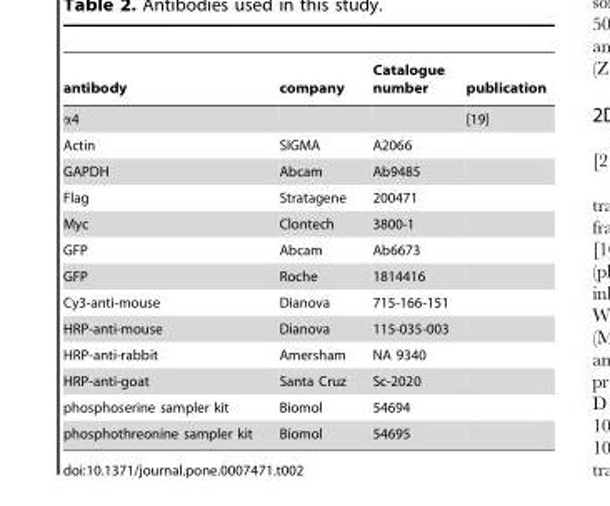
<table><thead><tr><td>antibody</td><td>company</td><td>Catalogue number</td><td>publication</td></tr></thead><tbody><tr><td>α4</td><td></td><td></td><td>[19]</td></tr><tr><td>Actin</td><td>SIGMA</td><td>A2066</td><td></td></tr><tr><td>GAPDH</td><td>Abcam</td><td>Ab9485</td><td></td></tr><tr><td>Flag</td><td>Stratagene</td><td>200471</td><td></td></tr><tr><td>Myc</td><td>Clontech</td><td>3800-1</td><td></td></tr><tr><td>GFP</td><td>Abcam</td><td>Ab6673</td><td></td></tr><tr><td>GFP</td><td>Roche</td><td>1814416</td><td></td></tr><tr><td>Cy3-anti-mouse</td><td>Dianova</td><td>715-166-151</td><td></td></tr><tr><td>HRP-anti-mouse</td><td>Dianova</td><td>115-035-003</td><td></td></tr><tr><td>HRP-anti-rabbit</td><td>Amersham</td><td>NA 9340</td><td></td></tr><tr><td>HRP-anti-goat</td><td>Santa Cruz</td><td>Sc-2020</td><td></td></tr><tr><td>phosphoserine sampler kit</td><td>Biomol</td><td>54694</td><td></td></tr><tr><td>phosphothreonine sampler kit</td><td>Biomol</td><td>54695</td><td></td></tr></tbody></table>